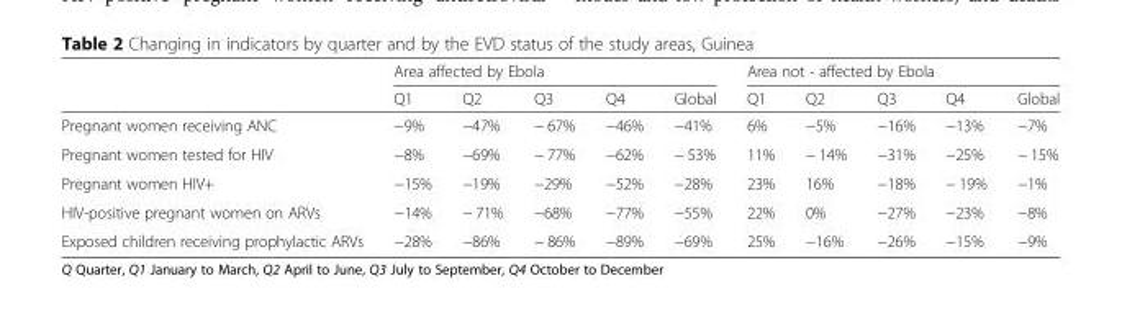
<table><thead><tr><td rowspan="2"></td><td colspan="5">Area affected by Ebola</td><td colspan="5">Area not - affected by Ebola</td></tr><tr><td>Q1</td><td>Q2</td><td>Q3</td><td>Q4</td><td>Global</td><td>Q1</td><td>Q2</td><td>Q3</td><td>Q4</td><td>Global</td></tr></thead><tbody><tr><td>Pregnant women receiving ANC</td><td>−9%</td><td>−47%</td><td>− 67%</td><td>−46%</td><td>−41%</td><td>6%</td><td>−5%</td><td>−16%</td><td>−13%</td><td>−7%</td></tr><tr><td>Pregnant women tested for HIV</td><td>−8%</td><td>−69%</td><td>− 77%</td><td>−62%</td><td>− 53%</td><td>11%</td><td>− 14%</td><td>−31%</td><td>−25%</td><td>− 15%</td></tr><tr><td>Pregnant women HIV+</td><td>−15%</td><td>−19%</td><td>−29%</td><td>−52%</td><td>−28%</td><td>23%</td><td>16%</td><td>−18%</td><td>− 19%</td><td>−1%</td></tr><tr><td>HIV-positive pregnant women on ARVs</td><td>−14%</td><td>− 71%</td><td>−68%</td><td>−77%</td><td>−55%</td><td>22%</td><td>0%</td><td>−27%</td><td>−23%</td><td>−8%</td></tr><tr><td>Exposed children receiving prophylactic ARVs</td><td>−28%</td><td>−86%</td><td>− 86%</td><td>−89%</td><td>−69%</td><td>25%</td><td>−16%</td><td>−26%</td><td>−15%</td><td>−9%</td></tr></tbody></table>